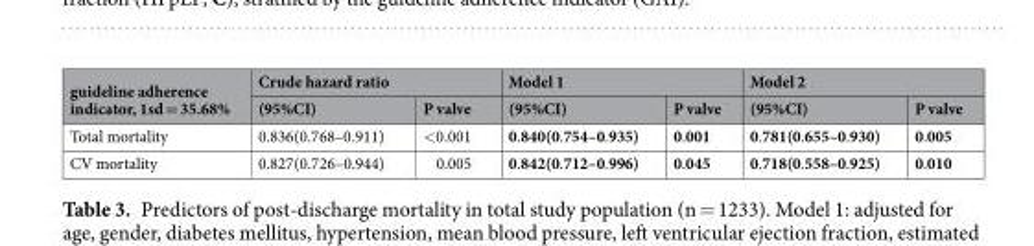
<table><thead><tr><td rowspan="2">guideline adherence indicator, 1sd = 35.68%</td><td colspan="2">Crude hazard ratio</td><td colspan="2">Model 1</td><td colspan="2">Model 2</td></tr><tr><td>(95%CI)</td><td>P valve</td><td>(95%CI)</td><td>P valve</td><td>(95%CI)</td><td>P valve</td></tr></thead><tbody><tr><td>Total mortality</td><td>0.836(0.768–0.911)</td><td>&lt;0.001</td><td>0.840(0.754–0.935)</td><td>0.001</td><td>0.781(0.655–0.930)</td><td>0.005</td></tr><tr><td>CV mortality</td><td>0.827(0.726–0.944)</td><td>0.005</td><td>0.842(0.712–0.996)</td><td>0.045</td><td>0.718(0.558–0.925)</td><td>0.010</td></tr></tbody></table>